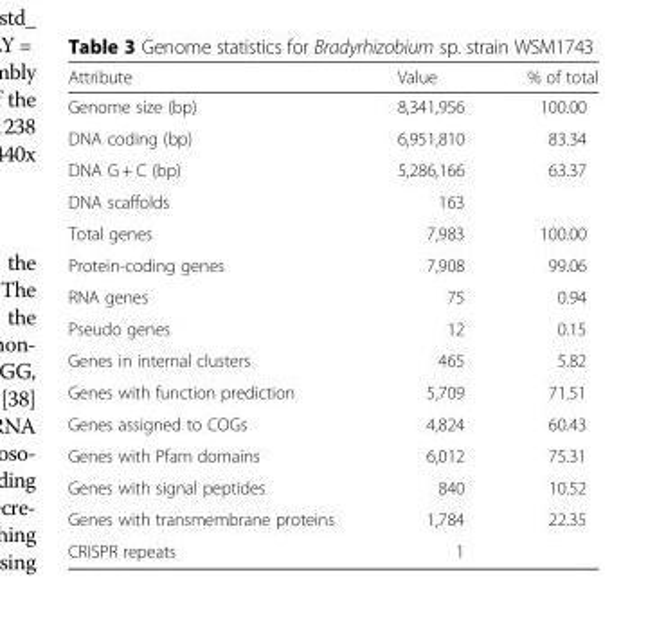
<table><thead><tr><td>Attribute</td><td>Value</td><td>% of total</td></tr></thead><tbody><tr><td>Genome size (bp)</td><td>8,341,956</td><td>100.00</td></tr><tr><td>DNA coding (bp)</td><td>6,951,810</td><td>83.34</td></tr><tr><td>DNA G + C (bp)</td><td>5,286,166</td><td>63.37</td></tr><tr><td>DNA scaffolds</td><td>163</td><td></td></tr><tr><td>Total genes</td><td>7,983</td><td>100.00</td></tr><tr><td>Protein-coding genes</td><td>7,908</td><td>99.06</td></tr><tr><td>RNA genes</td><td>75</td><td>0.94</td></tr><tr><td>Pseudo genes</td><td>12</td><td>0.15</td></tr><tr><td>Genes in internal clusters</td><td>465</td><td>5.82</td></tr><tr><td>Genes with function prediction</td><td>5,709</td><td>71.51</td></tr><tr><td>Genes assigned to COGs</td><td>4,824</td><td>60.43</td></tr><tr><td>Genes with Pfam domains</td><td>6,012</td><td>75.31</td></tr><tr><td>Genes with signal peptides</td><td>840</td><td>10.52</td></tr><tr><td>Genes with transmembrane proteins</td><td>1,784</td><td>22.35</td></tr><tr><td>CRISPR repeats</td><td>1</td><td></td></tr></tbody></table>